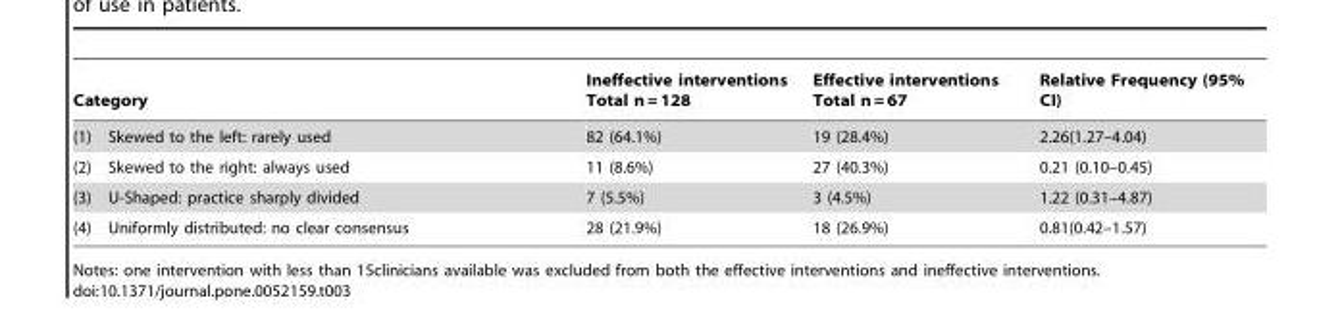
<table><thead><tr><td>Category</td><td>Ineffective interventions Total n = 128</td><td>Effective interventions Total n = 67</td><td>Relative Frequency (95% CI)</td></tr></thead><tbody><tr><td>(1) Skewed to the left: rarely used</td><td>82 (64.1%)</td><td>19 (28.4%)</td><td>2.26(1.27–4.04)</td></tr><tr><td>(2) Skewed to the right: always used</td><td>11 (8.6%)</td><td>27 (40.3%)</td><td>0.21 (0.10–0.45)</td></tr><tr><td>(3) U-Shaped: practice sharply divided</td><td>7 (5.5%)</td><td>3 (4.5%)</td><td>1.22 (0.31–4.87)</td></tr><tr><td>(4) Uniformly distributed: no clear consensus</td><td>28 (21.9%)</td><td>18 (26.9%)</td><td>0.81(0.42–1.57)</td></tr></tbody></table>